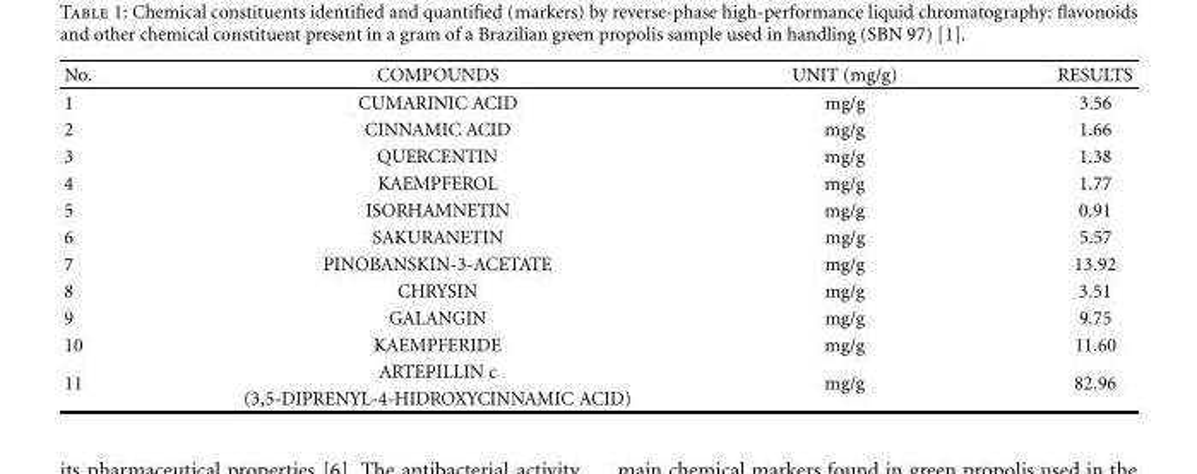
<table><thead><tr><td>No.</td><td>COMPOUNDS</td><td>UNIT (mg/g)</td><td>RESULTS</td></tr></thead><tbody><tr><td>1</td><td>CUMARINIC ACID</td><td>mg/g</td><td>3.56</td></tr><tr><td>2</td><td>CINNAMIC ACID</td><td>mg/g</td><td>1.66</td></tr><tr><td>3</td><td>QUERCENTIN</td><td>mg/g</td><td>1.38</td></tr><tr><td>4</td><td>KAEMPFEROL</td><td>mg/g</td><td>1.77</td></tr><tr><td>5</td><td>ISORHAMNETIN</td><td>mg/g</td><td>0.91</td></tr><tr><td>6</td><td>SAKURANETIN</td><td>mg/g</td><td>5.57</td></tr><tr><td>7</td><td>PINOBANSKIN-3-ACETATE</td><td>mg/g</td><td>13.92</td></tr><tr><td>8</td><td>CHRYSIN</td><td>mg/g</td><td>3.51</td></tr><tr><td>9</td><td>GALANGIN</td><td>mg/g</td><td>9.75</td></tr><tr><td>10</td><td>KAEMPFERIDE</td><td>mg/g</td><td>11.60</td></tr><tr><td rowspan="2">11</td><td>ARTEPILLIN c</td><td rowspan="2">mg/g</td><td rowspan="2">82.96</td></tr><tr><td>(3,5-DIPRENYL-4-HIDROXYCINNAMIC ACID)</td></tr></tbody></table>